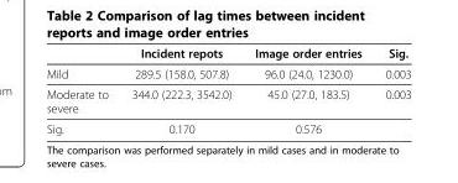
<table><thead><tr><td></td><td>Incident repots</td><td>Image order entries</td><td>Sig.</td></tr></thead><tbody><tr><td>Mild</td><td>289.5 (158.0, 507.8)</td><td>96.0 (24.0, 1230.0)</td><td>0.003</td></tr><tr><td>Moderate to severe</td><td>344.0 (222.3, 3542.0)</td><td>45.0 (27.0, 183.5)</td><td>0.003</td></tr><tr><td>Sig.</td><td>0.170</td><td>0.576</td><td></td></tr></tbody></table>